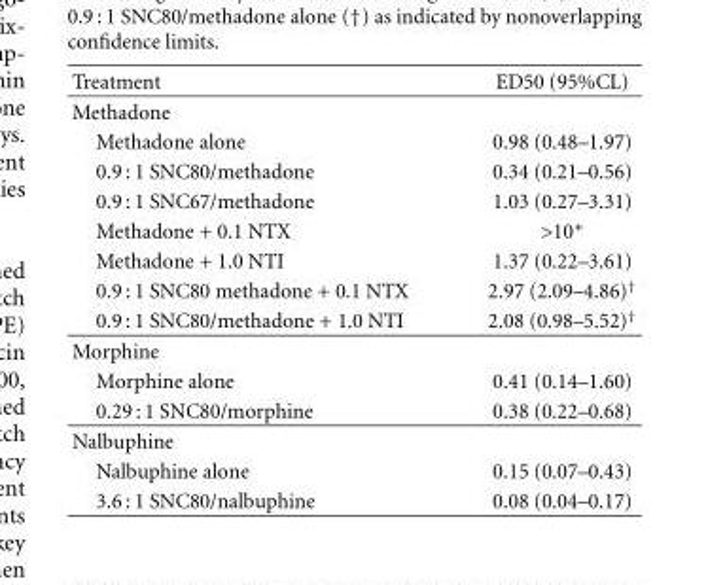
<table><thead><tr><td>Treatment</td><td>ED50 (95%CL)</td></tr></thead><tbody><tr><td colspan="2">Methadone</td></tr><tr><td>Methadone alone</td><td>0.98 (0.48–1.97)</td></tr><tr><td>0.9 : 1 SNC80/methadone</td><td>0.34 (0.21–0.56)</td></tr><tr><td>0.9 : 1 SNC67/methadone</td><td>1.03 (0.27–3.31)</td></tr><tr><td>Methadone + 0.1 NTX</td><td>&gt;10∗</td></tr><tr><td>Methadone + 1.0 NTI</td><td>1.37 (0.22–3.61)</td></tr><tr><td>0.9 : 1 SNC80 methadone + 0.1 NTX</td><td>2.97 (2.09–4.86)<sup>†</sup></td></tr><tr><td>0.9 : 1 SNC80/methadone + 1.0 NTI</td><td>2.08 (0.98–5.52)<sup>†</sup></td></tr><tr><td colspan="2">Morphine</td></tr><tr><td>Morphine alone</td><td>0.41 (0.14–1.60)</td></tr><tr><td>0.29 : 1 SNC80/morphine</td><td>0.38 (0.22–0.68)</td></tr><tr><td colspan="2">Nalbuphine</td></tr><tr><td>Nalbuphine alone</td><td>0.15 (0.07–0.43)</td></tr><tr><td>3.6 : 1 SNC80/nalbuphine</td><td>0.08 (0.04–0.17)</td></tr></tbody></table>